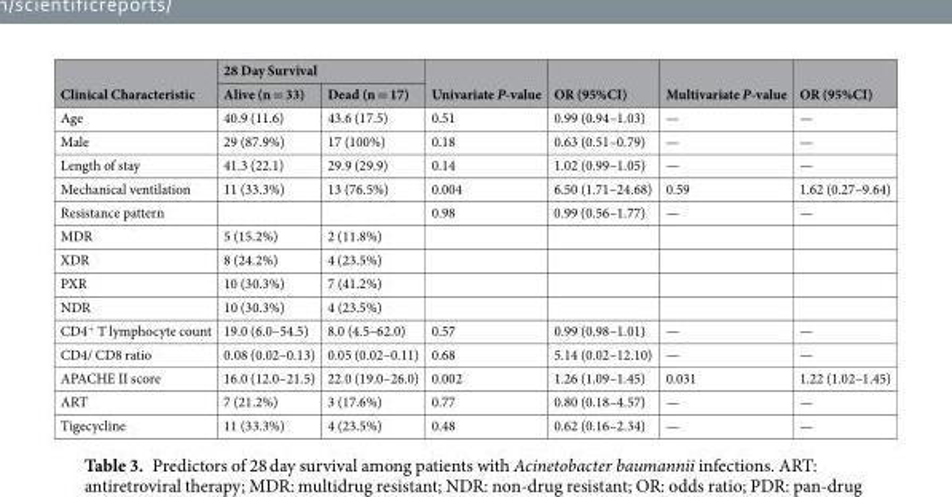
<table><thead><tr><td rowspan="2">Clinical Characteristic</td><td colspan="2">28 Day Survival</td><td rowspan="2">Univariate P-value</td><td rowspan="2">OR (95%CI)</td><td rowspan="2">Multivariate P-value</td><td rowspan="2">OR (95%CI)</td></tr><tr><td>Alive (n = 33)</td><td>Dead (n = 17)</td></tr></thead><tbody><tr><td>Age</td><td>40.9 (11.6)</td><td>43.6 (17.5)</td><td>0.51</td><td>0.99 (0.94–1.03)</td><td>—</td><td>—</td></tr><tr><td>Male</td><td>29 (87.9%)</td><td>17 (100%)</td><td>0.18</td><td>0.63 (0.51–0.79)</td><td>—</td><td>—</td></tr><tr><td>Length of stay</td><td>41.3 (22.1)</td><td>29.9 (29.9)</td><td>0.14</td><td>1.02 (0.99–1.05)</td><td>—</td><td>—</td></tr><tr><td>Mechanical ventilation</td><td>11 (33.3%)</td><td>13 (76.5%)</td><td>0.004</td><td>6.50 (1.71–24.68)</td><td>0.59</td><td>1.62 (0.27–9.64)</td></tr><tr><td>Resistance pattern</td><td></td><td></td><td>0.98</td><td>0.99 (0.56–1.77)</td><td>—</td><td>—</td></tr><tr><td>MDR</td><td>5 (15.2%)</td><td>2 (11.8%)</td><td></td><td></td><td></td><td></td></tr><tr><td>XDR</td><td>8 (24.2%)</td><td>4 (23.5%)</td><td></td><td></td><td></td><td></td></tr><tr><td>PXR</td><td>10 (30.3%)</td><td>7 (41.2%)</td><td></td><td></td><td></td><td></td></tr><tr><td>NDR</td><td>10 (30.3%)</td><td>4 (23.5%)</td><td></td><td></td><td></td><td></td></tr><tr><td>CD4<sup>+</sup> T lymphocyte count</td><td>19.0 (6.0–54.5)</td><td>8.0 (4.5–62.0)</td><td>0.57</td><td>0.99 (0.98–1.01)</td><td>—</td><td>—</td></tr><tr><td>CD4/ CD8 ratio</td><td>0.08 (0.02–0.13)</td><td>0.05 (0.02–0.11)</td><td>0.68</td><td>5.14 (0.02–12.10)</td><td>—</td><td>—</td></tr><tr><td>APACHE II score</td><td>16.0 (12.0–21.5)</td><td>22.0 (19.0–26.0)</td><td>0.002</td><td>1.26 (1.09–1.45)</td><td>0.031</td><td>1.22 (1.02–1.45)</td></tr><tr><td>ART</td><td>7 (21.2%)</td><td>3 (17.6%)</td><td>0.77</td><td>0.80 (0.18–4.57)</td><td>—</td><td>—</td></tr><tr><td>Tigecycline</td><td>11 (33.3%)</td><td>4 (23.5%)</td><td>0.48</td><td>0.62 (0.16–2.34)</td><td>—</td><td>—</td></tr></tbody></table>